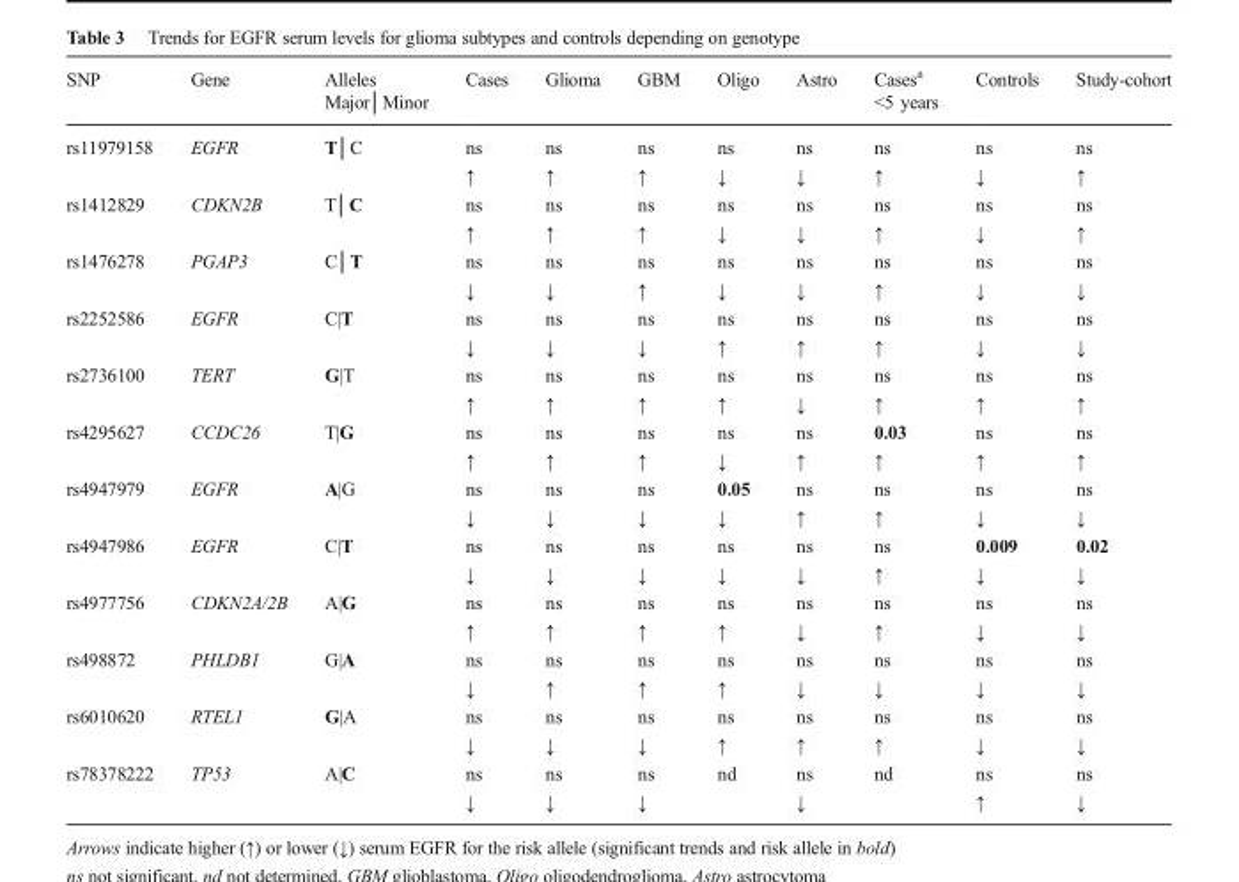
<table><thead><tr><td rowspan="2">SNP</td><td rowspan="2">Gene</td><td rowspan="2">Alleles Major│Minor</td><td rowspan="2">Cases</td><td rowspan="2">Glioma</td><td rowspan="2">GBM</td><td rowspan="2">Oligo</td><td rowspan="2">Astro</td><td rowspan="2">Cases<sup>a</sup> &lt;5 years</td><td rowspan="2">Controls</td><td rowspan="2">Study-cohort</td></tr><tr></tr></thead><tbody><tr><td rowspan="2">rs11979158</td><td rowspan="2">EGFR</td><td rowspan="2">T│C</td><td>ns</td><td>ns</td><td>ns</td><td>ns</td><td>ns</td><td>ns</td><td>ns</td><td>ns</td></tr><tr><td>↑</td><td>↑</td><td>↑</td><td>↓</td><td>↓</td><td>↑</td><td>↓</td><td>↑</td></tr><tr><td rowspan="2">rs1412829</td><td rowspan="2">CDKN2B</td><td rowspan="2">T│C</td><td>ns</td><td>ns</td><td>ns</td><td>ns</td><td>ns</td><td>ns</td><td>ns</td><td>ns</td></tr><tr><td>↑</td><td>↑</td><td>↑</td><td>↓</td><td>↓</td><td>↑</td><td>↓</td><td>↑</td></tr><tr><td rowspan="2">rs1476278</td><td rowspan="2">PGAP3</td><td rowspan="2">C│T</td><td>ns</td><td>ns</td><td>ns</td><td>ns</td><td>ns</td><td>ns</td><td>ns</td><td>ns</td></tr><tr><td>↓</td><td>↓</td><td>↑</td><td>↓</td><td>↓</td><td>↑</td><td>↓</td><td>↓</td></tr><tr><td rowspan="2">rs2252586</td><td rowspan="2">EGFR</td><td rowspan="2">C|T</td><td>ns</td><td>ns</td><td>ns</td><td>ns</td><td>ns</td><td>ns</td><td>ns</td><td>ns</td></tr><tr><td>↓</td><td>↓</td><td>↓</td><td>↑</td><td>↑</td><td>↑</td><td>↓</td><td>↓</td></tr><tr><td rowspan="2">rs2736100</td><td rowspan="2">TERT</td><td rowspan="2">G|T</td><td>ns</td><td>ns</td><td>ns</td><td>ns</td><td>ns</td><td>ns</td><td>ns</td><td>ns</td></tr><tr><td>↑</td><td>↑</td><td>↑</td><td>↑</td><td>↓</td><td>↑</td><td>↑</td><td>↑</td></tr><tr><td rowspan="2">rs4295627</td><td rowspan="2">CCDC26</td><td rowspan="2">T|G</td><td>ns</td><td>ns</td><td>ns</td><td>ns</td><td>ns</td><td>0.03</td><td>ns</td><td>ns</td></tr><tr><td>↑</td><td>↑</td><td>↑</td><td>↓</td><td>↑</td><td>↑</td><td>↑</td><td>↑</td></tr><tr><td rowspan="2">rs4947979</td><td rowspan="2">EGFR</td><td rowspan="2">A|G</td><td>ns</td><td>ns</td><td>ns</td><td>0.05</td><td>ns</td><td>ns</td><td>ns</td><td>ns</td></tr><tr><td>↓</td><td>↓</td><td>↓</td><td>↓</td><td>↑</td><td>↑</td><td>↓</td><td>↓</td></tr><tr><td rowspan="2">rs4947986</td><td rowspan="2">EGFR</td><td rowspan="2">C|T</td><td>ns</td><td>ns</td><td>ns</td><td>ns</td><td>ns</td><td>ns</td><td>0.009</td><td>0.02</td></tr><tr><td>↓</td><td>↓</td><td>↓</td><td>↓</td><td>↓</td><td>↑</td><td>↓</td><td>↓</td></tr><tr><td rowspan="2">rs4977756</td><td rowspan="2">CDKN2A/2B</td><td rowspan="2">A|G</td><td>ns</td><td>ns</td><td>ns</td><td>ns</td><td>ns</td><td>ns</td><td>ns</td><td>ns</td></tr><tr><td>↑</td><td>↑</td><td>↑</td><td>↑</td><td>↓</td><td>↑</td><td>↓</td><td>↓</td></tr><tr><td rowspan="2">rs498872</td><td rowspan="2">PHLDB1</td><td rowspan="2">G|A</td><td>ns</td><td>ns</td><td>ns</td><td>ns</td><td>ns</td><td>ns</td><td>ns</td><td>ns</td></tr><tr><td>↓</td><td>↑</td><td>↑</td><td>↑</td><td>↓</td><td>↓</td><td>↓</td><td>↓</td></tr><tr><td rowspan="2">rs6010620</td><td rowspan="2">RTEL1</td><td rowspan="2">G|A</td><td>ns</td><td>ns</td><td>ns</td><td>ns</td><td>ns</td><td>ns</td><td>ns</td><td>ns</td></tr><tr><td>↓</td><td>↓</td><td>↓</td><td>↑</td><td>↑</td><td>↑</td><td>↓</td><td>↓</td></tr><tr><td rowspan="2">rs78378222</td><td rowspan="2">TP53</td><td rowspan="2">A|C</td><td>ns</td><td>ns</td><td>ns</td><td rowspan="2">nd</td><td>ns</td><td rowspan="2">nd</td><td>ns</td><td>ns</td></tr><tr><td>↓</td><td>↓</td><td>↓</td><td>↓</td><td>↑</td><td>↓</td></tr></tbody></table>